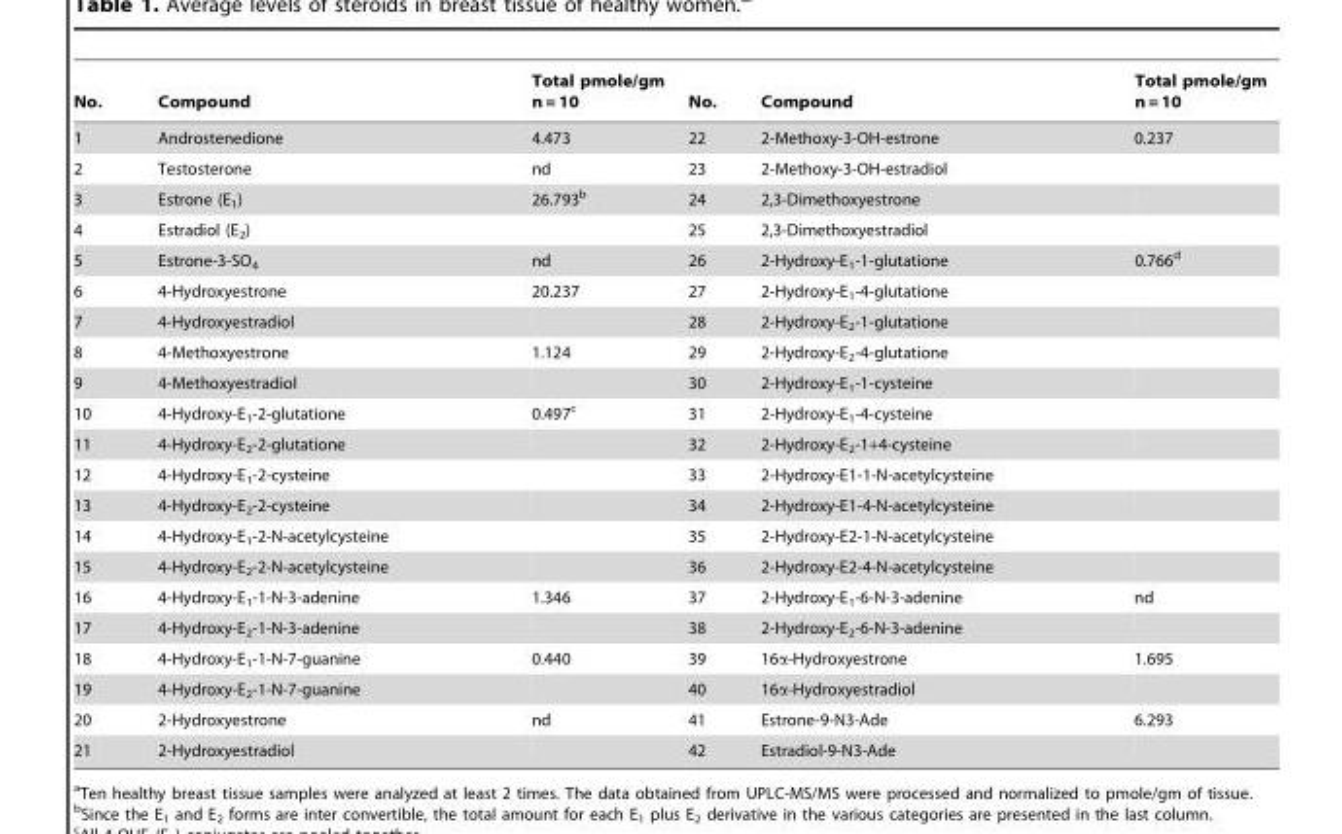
<table><thead><tr><td>No.</td><td>Compound</td><td>Total pmole/gm n = 10</td><td>No.</td><td>Compound</td><td>Total pmole/gm n = 10</td></tr></thead><tbody><tr><td>1</td><td>Androstenedione</td><td>4.473</td><td>22</td><td>2-Methoxy-3-OH-estrone</td><td>0.237</td></tr><tr><td>2</td><td>Testosterone</td><td>nd</td><td>23</td><td>2-Methoxy-3-OH-estradiol</td><td></td></tr><tr><td>3</td><td>Estrone (E<sub>1</sub>)</td><td>26.793<sup>b</sup></td><td>24</td><td>2,3-Dimethoxyestrone</td><td></td></tr><tr><td>4</td><td>Estradiol (E<sub>2</sub>)</td><td></td><td>25</td><td>2,3-Dimethoxyestradiol</td><td></td></tr><tr><td>5</td><td>Estrone-3-SO<sub>4</sub></td><td>nd</td><td>26</td><td>2-Hydroxy-E<sub>1</sub>-1-glutatione</td><td>0.766<sup>d</sup></td></tr><tr><td>6</td><td>4-Hydroxyestrone</td><td>20.237</td><td>27</td><td>2-Hydroxy-E<sub>1</sub>-4-glutatione</td><td></td></tr><tr><td>7</td><td>4-Hydroxyestradiol</td><td></td><td>28</td><td>2-Hydroxy-E<sub>2</sub>-1-glutatione</td><td></td></tr><tr><td>8</td><td>4-Methoxyestrone</td><td>1.124</td><td>29</td><td>2-Hydroxy-E<sub>2</sub>-4-glutatione</td><td></td></tr><tr><td>9</td><td>4-Methoxyestradiol</td><td></td><td>30</td><td>2-Hydroxy-E<sub>1</sub>-1-cysteine</td><td></td></tr><tr><td>10</td><td>4-Hydroxy-E<sub>1</sub>-2-glutatione</td><td>0.497<sup>c</sup></td><td>31</td><td>2-Hydroxy-E<sub>1</sub>-4-cysteine</td><td></td></tr><tr><td>11</td><td>4-Hydroxy-E<sub>2</sub>-2-glutatione</td><td></td><td>32</td><td>2-Hydroxy-E<sub>2</sub>-1+4-cysteine</td><td></td></tr><tr><td>12</td><td>4-Hydroxy-E<sub>1</sub>-2-cysteine</td><td></td><td>33</td><td>2-Hydroxy-E1-1-N-acetylcysteine</td><td></td></tr><tr><td>13</td><td>4-Hydroxy-E<sub>2</sub>-2-cysteine</td><td></td><td>34</td><td>2-Hydroxy-E1-4-N-acetylcysteine</td><td></td></tr><tr><td>14</td><td>4-Hydroxy-E<sub>1</sub>-2-N-acetylcysteine</td><td></td><td>35</td><td>2-Hydroxy-E2-1-N-acetylcysteine</td><td></td></tr><tr><td>15</td><td>4-Hydroxy-E<sub>2</sub>-2-N-acetylcysteine</td><td></td><td>36</td><td>2-Hydroxy-E2-4-N-acetylcysteine</td><td></td></tr><tr><td>16</td><td>4-Hydroxy-E<sub>1</sub>-1-N-3-adenine</td><td>1.346</td><td>37</td><td>2-Hydroxy-E<sub>1</sub>-6-N-3-adenine</td><td>nd</td></tr><tr><td>17</td><td>4-Hydroxy-E<sub>2</sub>-1-N-3-adenine</td><td></td><td>38</td><td>2-Hydroxy-E<sub>2</sub>-6-N-3-adenine</td><td></td></tr><tr><td>18</td><td>4-Hydroxy-E<sub>1</sub>-1-N-7-guanine</td><td>0.440</td><td>39</td><td>16α-Hydroxyestrone</td><td>1.695</td></tr><tr><td>19</td><td>4-Hydroxy-E<sub>2</sub>-1-N-7-guanine</td><td></td><td>40</td><td>16α-Hydroxyestradiol</td><td></td></tr><tr><td>20</td><td>2-Hydroxyestrone</td><td>nd</td><td>41</td><td>Estrone-9-N3-Ade</td><td>6.293</td></tr><tr><td>21</td><td>2-Hydroxyestradiol</td><td></td><td>42</td><td>Estradiol-9-N3-Ade</td><td></td></tr></tbody></table>